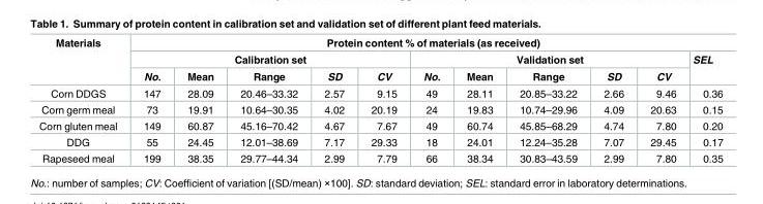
<table><thead><tr><td rowspan="3">Materials</td><td colspan="11">Protein content % of materials (as received)</td></tr><tr><td colspan="5">Calibration set</td><td colspan="5">Validation set</td><td rowspan="2">SEL</td></tr><tr><td>No.</td><td>Mean</td><td>Range</td><td>SD</td><td>CV</td><td>No.</td><td>Mean</td><td>Range</td><td>SD</td><td>CV</td></tr></thead><tbody><tr><td>Corn DDGS</td><td>147</td><td>28.09</td><td>20.46–33.32</td><td>2.57</td><td>9.15</td><td>49</td><td>28.11</td><td>20.85–33.22</td><td>2.66</td><td>9.46</td><td>0.36</td></tr><tr><td>Corn germ meal</td><td>73</td><td>19.91</td><td>10.64–30.35</td><td>4.02</td><td>20.19</td><td>24</td><td>19.83</td><td>10.74–29.96</td><td>4.09</td><td>20.63</td><td>0.15</td></tr><tr><td>Corn gluten meal</td><td>149</td><td>60.87</td><td>45.16–70.42</td><td>4.67</td><td>7.67</td><td>49</td><td>60.74</td><td>45.85–68.29</td><td>4.74</td><td>7.80</td><td>0.20</td></tr><tr><td>DDG</td><td>55</td><td>24.45</td><td>12.01–38.69</td><td>7.17</td><td>29.33</td><td>18</td><td>24.01</td><td>12.24–35.28</td><td>7.07</td><td>29.45</td><td>0.17</td></tr><tr><td>Rapeseed meal</td><td>199</td><td>38.35</td><td>29.77–44.34</td><td>2.99</td><td>7.79</td><td>66</td><td>38.34</td><td>30.83–43.59</td><td>2.99</td><td>7.80</td><td>0.35</td></tr></tbody></table>